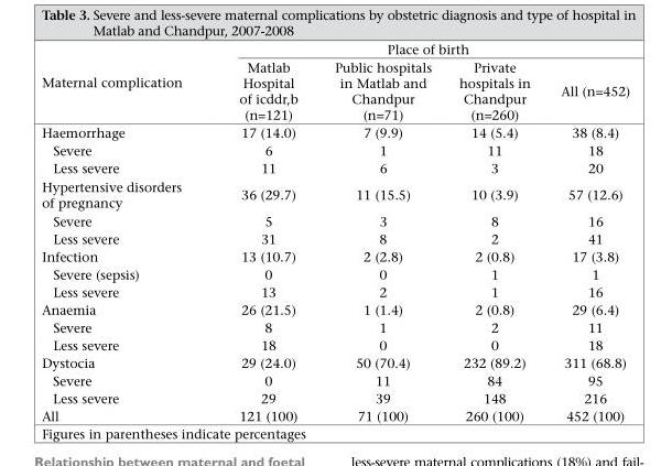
<table><thead><tr><td rowspan="2">Maternal complication</td><td colspan="4">Place of birth</td></tr><tr><td>Matlab Hospital of icddr,b (n=121)</td><td>Public hospitals in Matlab and Chandpur (n=71)</td><td>Private hospitals in Chandpur (n=260)</td><td>All (n=452)</td></tr></thead><tbody><tr><td>Haemorrhage</td><td>17 (14.0)</td><td>7 (9.9)</td><td>14 (5.4)</td><td>38 (8.4)</td></tr><tr><td>Severe</td><td>6</td><td>1</td><td>11</td><td>18</td></tr><tr><td>Less severe</td><td>11</td><td>6</td><td>3</td><td>20</td></tr><tr><td>Hypertensive disorders of pregnancy</td><td>36 (29.7)</td><td>11 (15.5)</td><td>10 (3.9)</td><td>57 (12.6)</td></tr><tr><td>Severe</td><td>5</td><td>3</td><td>8</td><td>16</td></tr><tr><td>Less severe</td><td>31</td><td>8</td><td>2</td><td>41</td></tr><tr><td>Infection</td><td>13 (10.7)</td><td>2 (2.8)</td><td>2 (0.8)</td><td>17 (3.8)</td></tr><tr><td>Severe (sepsis)</td><td>0</td><td>0</td><td>1</td><td>1</td></tr><tr><td>Less severe</td><td>13</td><td>2</td><td>1</td><td>16</td></tr><tr><td>Anaemia</td><td>26 (21.5)</td><td>1 (1.4)</td><td>2 (0.8)</td><td>29 (6.4)</td></tr><tr><td>Severe</td><td>8</td><td>1</td><td>2</td><td>11</td></tr><tr><td>Less severe</td><td>18</td><td>0</td><td>0</td><td>18</td></tr><tr><td>Dystocia</td><td>29 (24.0)</td><td>50 (70.4)</td><td>232 (89.2)</td><td>311 (68.8)</td></tr><tr><td>Severe</td><td>0</td><td>11</td><td>84</td><td>95</td></tr><tr><td>Less severe</td><td>29</td><td>39</td><td>148</td><td>216</td></tr><tr><td>All</td><td>121 (100)</td><td>71 (100)</td><td>260 (100)</td><td>452 (100)</td></tr></tbody></table>